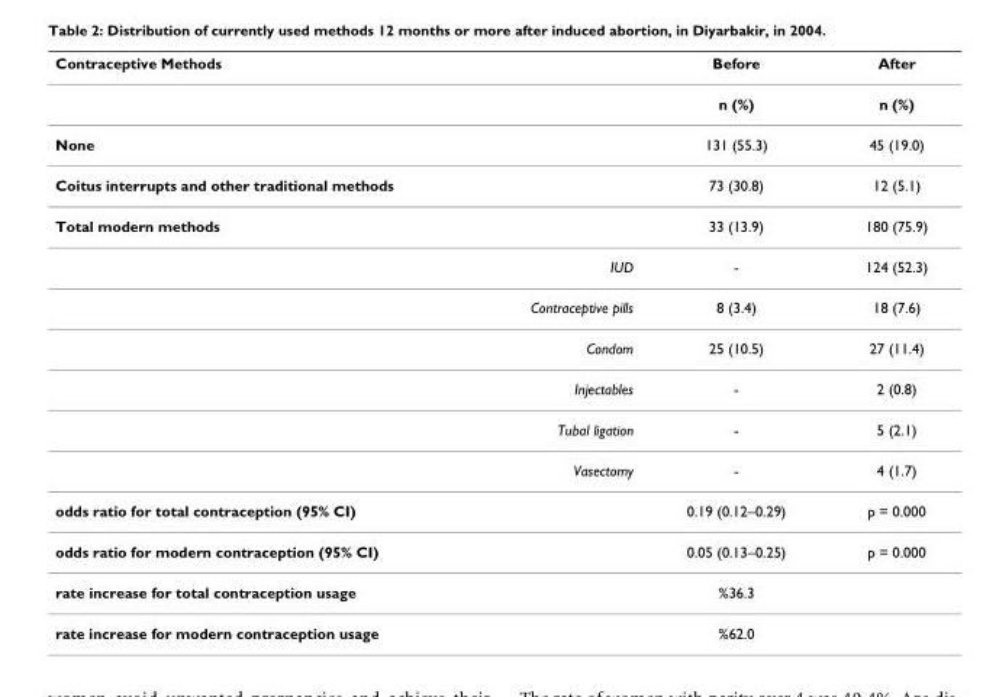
<table><thead><tr><td>Contraceptive Methods</td><td>Before</td><td>After</td></tr></thead><tbody><tr><td></td><td>n (%)</td><td>n (%)</td></tr><tr><td>None</td><td>131 (55.3)</td><td>45 (19.0)</td></tr><tr><td>Coitus interrupts and other traditional methods</td><td>73 (30.8)</td><td>12 (5.1)</td></tr><tr><td>Total modern methods</td><td>33 (13.9)</td><td>180 (75.9)</td></tr><tr><td>IUD</td><td>-</td><td>124 (52.3)</td></tr><tr><td>Contraceptive pills</td><td>8 (3.4)</td><td>18 (7.6)</td></tr><tr><td>Condom</td><td>25 (10.5)</td><td>27 (11.4)</td></tr><tr><td>Injectables</td><td>-</td><td>2 (0.8)</td></tr><tr><td>Tubal ligation</td><td>-</td><td>5 (2.1)</td></tr><tr><td>Vasectomy</td><td>-</td><td>4 (1.7)</td></tr><tr><td>odds ratio for total contraception (95% CI)</td><td>0.19 (0.12–0.29)</td><td>p = 0.000</td></tr><tr><td>odds ratio for modern contraception (95% CI)</td><td>0.05 (0.13–0.25)</td><td>p = 0.000</td></tr><tr><td>rate increase for total contraception usage</td><td>%36.3</td><td></td></tr><tr><td>rate increase for modern contraception usage</td><td>%62.0</td><td></td></tr></tbody></table>